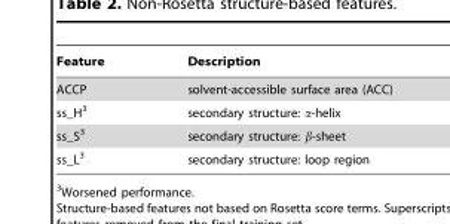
<table><thead><tr><td>Feature</td><td>Description</td></tr></thead><tbody><tr><td>ACCP</td><td>solvent-accessible surface area (ACC)</td></tr><tr><td>ss_H<sup>3</sup></td><td>secondary structure: a-helix</td></tr><tr><td>ss_S<sup>3</sup></td><td>secondary structure: b-sheet</td></tr><tr><td>ss_L<sup>3</sup></td><td>secondary structure: loop region</td></tr></tbody></table>